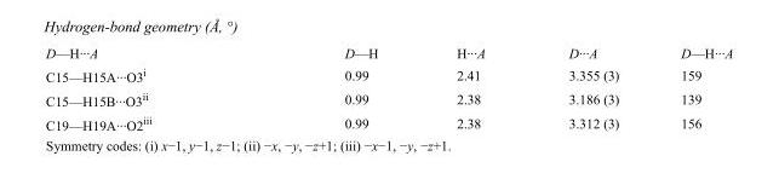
<table><tbody><tr><td>D—H···A</td><td>D—H</td><td>H···A</td><td>D···A</td><td>D—H···A</td></tr><tr><td>C15—H15A···O3<sup>i</sup></td><td>0.99</td><td>2.41</td><td>3.355 (3)</td><td>159</td></tr><tr><td>C15—H15B···O3<sup>ii</sup></td><td>0.99</td><td>2.38</td><td>3.186 (3)</td><td>139</td></tr><tr><td>C19—H19A···O2<sup>iii</sup></td><td>0.99</td><td>2.38</td><td>3.312 (3)</td><td>156</td></tr></tbody></table>